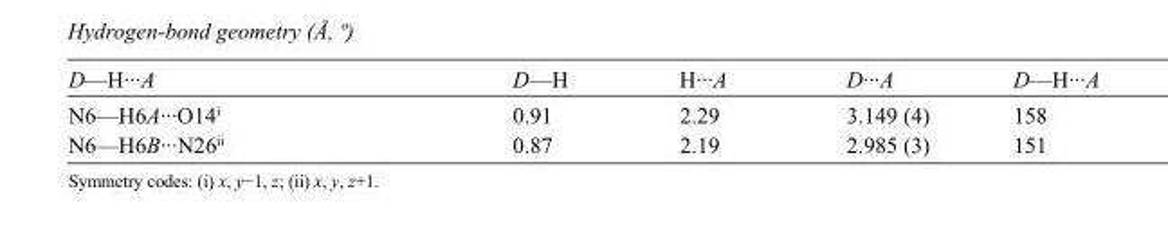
<table><tbody><tr><td>D—H···A</td><td>D—H</td><td>H···A</td><td>D···A</td><td>D—H···A</td></tr><tr><td>N6—H6A···O14<sup>i</sup></td><td>0.91</td><td>2.29</td><td>3.149 (4)</td><td>158</td></tr><tr><td>N6—H6B···N26<sup>ii</sup></td><td>0.87</td><td>2.19</td><td>2.985 (3)</td><td>151</td></tr></tbody></table>